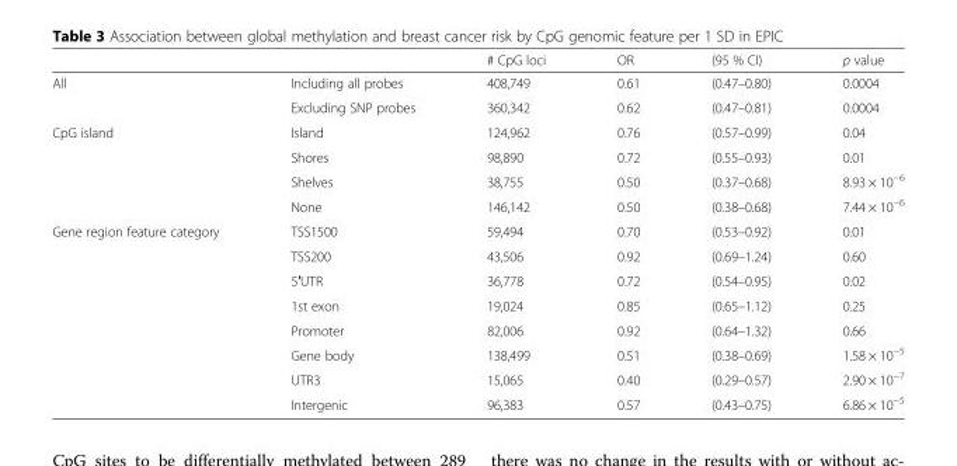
<table><thead><tr><td></td><td></td><td># CpG loci</td><td>OR</td><td>(95 % CI)</td><td>p value</td></tr></thead><tbody><tr><td rowspan="2">All</td><td>Including all probes</td><td>408,749</td><td>0.61</td><td>(0.47–0.80)</td><td>0.0004</td></tr><tr><td>Excluding SNP probes</td><td>360,342</td><td>0.62</td><td>(0.47–0.81)</td><td>0.0004</td></tr><tr><td rowspan="4">CpG island</td><td>Island</td><td>124,962</td><td>0.76</td><td>(0.57–0.99)</td><td>0.04</td></tr><tr><td>Shores</td><td>98,890</td><td>0.72</td><td>(0.55–0.93)</td><td>0.01</td></tr><tr><td>Shelves</td><td>38,755</td><td>0.50</td><td>(0.37–0.68)</td><td>8.93 × 10<sup>−6</sup></td></tr><tr><td>None</td><td>146,142</td><td>0.50</td><td>(0.38–0.68)</td><td>7.44 × 10<sup>−6</sup></td></tr><tr><td rowspan="8">Gene region feature category</td><td>TSS1500</td><td>59,494</td><td>0.70</td><td>(0.53–0.92)</td><td>0.01</td></tr><tr><td>TSS200</td><td>43,506</td><td>0.92</td><td>(0.69–1.24)</td><td>0.60</td></tr><tr><td>5′UTR</td><td>36,778</td><td>0.72</td><td>(0.54–0.95)</td><td>0.02</td></tr><tr><td>1st exon</td><td>19,024</td><td>0.85</td><td>(0.65–1.12)</td><td>0.25</td></tr><tr><td>Promoter</td><td>82,006</td><td>0.92</td><td>(0.64–1.32)</td><td>0.66</td></tr><tr><td>Gene body</td><td>138,499</td><td>0.51</td><td>(0.38–0.69)</td><td>1.58 × 10<sup>−5</sup></td></tr><tr><td>UTR3</td><td>15,065</td><td>0.40</td><td>(0.29–0.57)</td><td>2.90 × 10<sup>−7</sup></td></tr><tr><td>Intergenic</td><td>96,383</td><td>0.57</td><td>(0.43–0.75)</td><td>6.86 × 10<sup>−5</sup></td></tr></tbody></table>